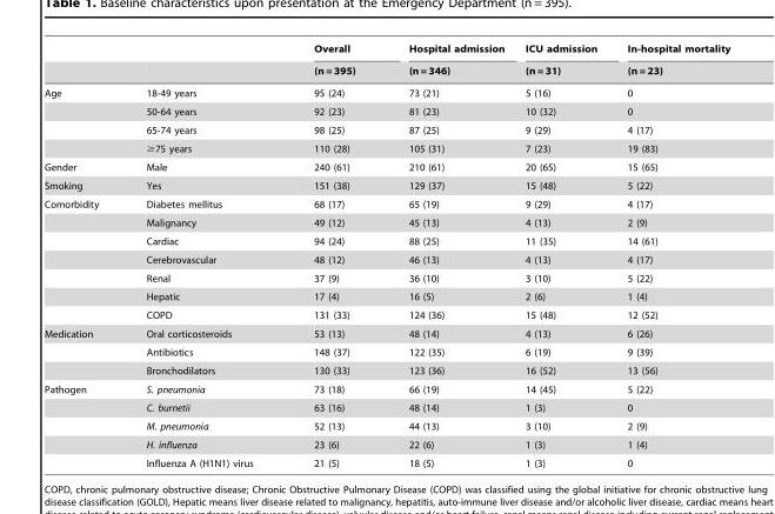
<table><thead><tr><td rowspan="2"></td><td rowspan="2"></td><td rowspan="2">Overall (n = 395)</td><td rowspan="2">Hospital admission (n = 346)</td><td rowspan="2">ICU admission (n = 31)</td><td rowspan="2">In-hospital mortality (n = 23)</td></tr><tr></tr></thead><tbody><tr><td rowspan="4">Age</td><td>18-49 years</td><td>95 (24)</td><td>73 (21)</td><td>5 (16)</td><td>0</td></tr><tr><td>50-64 years</td><td>92 (23)</td><td>81 (23)</td><td>10 (32)</td><td>0</td></tr><tr><td>65-74 years</td><td>98 (25)</td><td>87 (25)</td><td>9 (29)</td><td>4 (17)</td></tr><tr><td>≥75 years</td><td>110 (28)</td><td>105 (31)</td><td>7 (23)</td><td>19 (83)</td></tr><tr><td>Gender</td><td>Male</td><td>240 (61)</td><td>210 (61)</td><td>20 (65)</td><td>15 (65)</td></tr><tr><td>Smoking</td><td>Yes</td><td>151 (38)</td><td>129 (37)</td><td>15 (48)</td><td>5 (22)</td></tr><tr><td rowspan="7">Comorbidity</td><td>Diabetes mellitus</td><td>68 (17)</td><td>65 (19)</td><td>9 (29)</td><td>4 (17)</td></tr><tr><td>Malignancy</td><td>49 (12)</td><td>45 (13)</td><td>4 (13)</td><td>2 (9)</td></tr><tr><td>Cardiac</td><td>94 (24)</td><td>88 (25)</td><td>11 (35)</td><td>14 (61)</td></tr><tr><td>Cerebrovascular</td><td>48 (12)</td><td>46 (13)</td><td>4 (13)</td><td>4 (17)</td></tr><tr><td>Renal</td><td>37 (9)</td><td>36 (10)</td><td>3 (10)</td><td>5 (22)</td></tr><tr><td>Hepatic</td><td>17 (4)</td><td>16 (5)</td><td>2 (6)</td><td>1 (4)</td></tr><tr><td>COPD</td><td>131 (33)</td><td>124 (36)</td><td>15 (48)</td><td>12 (52)</td></tr><tr><td rowspan="3">Medication</td><td>Oral corticosteroids</td><td>53 (13)</td><td>48 (14)</td><td>4 (13)</td><td>6 (26)</td></tr><tr><td>Antibiotics</td><td>148 (37)</td><td>122 (35)</td><td>6 (19)</td><td>9 (39)</td></tr><tr><td>Bronchodilators</td><td>130 (33)</td><td>123 (36)</td><td>16 (52)</td><td>13 (56)</td></tr><tr><td rowspan="5">Pathogen</td><td>S. pneumonia</td><td>73 (18)</td><td>66 (19)</td><td>14 (45)</td><td>5 (22)</td></tr><tr><td>C. burnetii</td><td>63 (16)</td><td>48 (14)</td><td>1 (3)</td><td>0</td></tr><tr><td>M. pneumonia</td><td>52 (13)</td><td>44 (13)</td><td>3 (10)</td><td>2 (9)</td></tr><tr><td>H. influenza</td><td>23 (6)</td><td>22 (6)</td><td>1 (3)</td><td>1 (4)</td></tr><tr><td>Influenza A (H1N1) virus</td><td>21 (5)</td><td>18 (5)</td><td>1 (3)</td><td>0</td></tr></tbody></table>